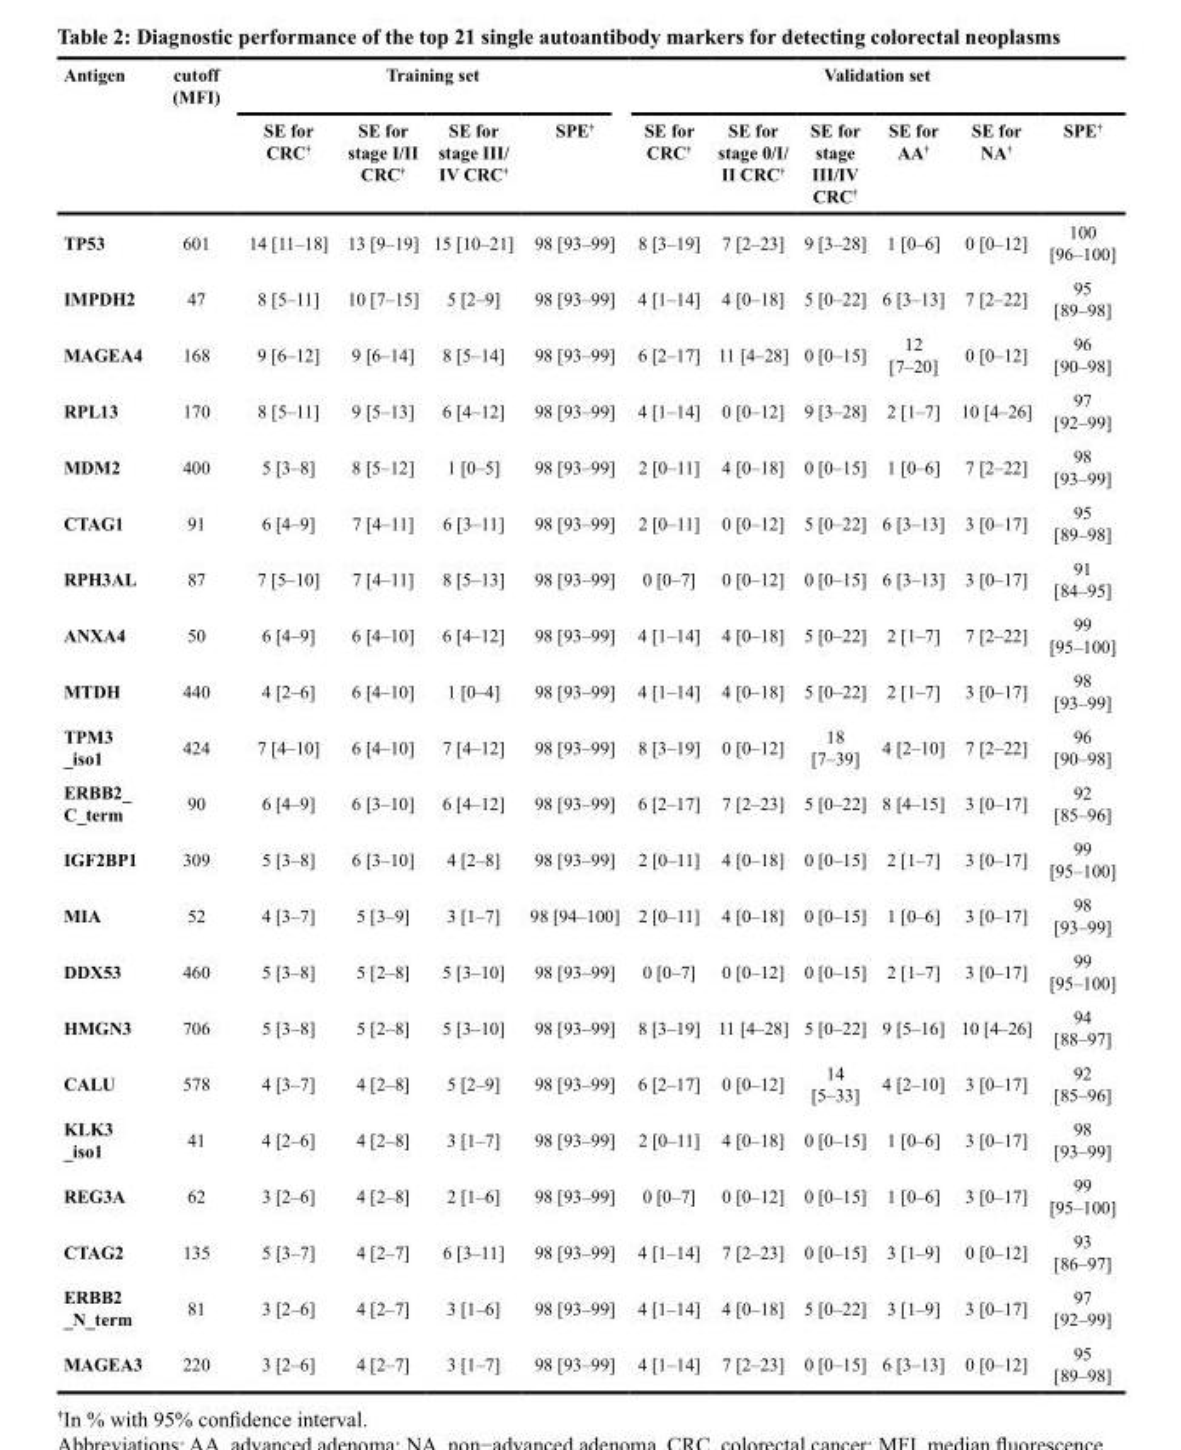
<table><thead><tr><td rowspan="2">Antigen</td><td rowspan="2">cutoff (MFI)</td><td colspan="4">Training set</td><td colspan="6">Vali dation set</td></tr><tr><td>SE for CRC<sup>†</sup></td><td>SE for stage I/II CRC<sup>†</sup></td><td>SE for stage III/ IV CRC<sup>†</sup></td><td>SPE<sup>†</sup></td><td>SE for CRC<sup>†</sup></td><td>SE for stage 0/I/ II CRC<sup>†</sup></td><td>SE for stage III/IV CRC<sup>†</sup></td><td>SE for AA<sup>†</sup></td><td>SE for NA<sup>†</sup></td><td>SPE<sup>†</sup></td></tr></thead><tbody><tr><td>TP53</td><td>601</td><td>14 [11–18]</td><td>13 [9–19]</td><td>15 [10–21]</td><td>98 [93–99]</td><td>8 [3–19]</td><td>7 [2–23]</td><td>9 [3–28]</td><td>1 [0–6]</td><td>0 [0–12]</td><td>100 [96–100]</td></tr><tr><td>IMPDH2</td><td>47</td><td>8 [5–11]</td><td>10 [7–15]</td><td>5 [2–9]</td><td>98 [93–99]</td><td>4 [1–14]</td><td>4 [0–18]</td><td>5 [0–22]</td><td>6 [3–13]</td><td>7 [2–22]</td><td>95 [89–98]</td></tr><tr><td>MAGEA4</td><td>168</td><td>9 [6–12]</td><td>9 [6–14]</td><td>8 [5–14]</td><td>98 [93–99]</td><td>6 [2–17]</td><td>11 [4–28]</td><td>0 [0–15]</td><td>12 [7–20]</td><td>0 [0–12]</td><td>96 [90–98]</td></tr><tr><td>RPL13</td><td>170</td><td>8 [5–11]</td><td>9 [5–13]</td><td>6 [4–12]</td><td>98 [93–99]</td><td>4 [1–14]</td><td>0 [0–12]</td><td>9 [3–28]</td><td>2 [1–7]</td><td>10 [4–26]</td><td>97 [92–99]</td></tr><tr><td>MDM2</td><td>400</td><td>5 [3–8]</td><td>8 [5–12]</td><td>1 [0–5]</td><td>98 [93–99]</td><td>2 [0–11]</td><td>4 [0–18]</td><td>0 [0–15]</td><td>1 [0–6]</td><td>7 [2–22]</td><td>98 [93–99]</td></tr><tr><td>CTAG1</td><td>91</td><td>6 [4–9]</td><td>7 [4–11]</td><td>6 [3–11]</td><td>98 [93–99]</td><td>2 [0–11]</td><td>0 [0–12]</td><td>5 [0–22]</td><td>6 [3–13]</td><td>3 [0–17]</td><td>95 [89–98]</td></tr><tr><td>RPH3AL</td><td>87</td><td>7 [5–10]</td><td>7 [4–11]</td><td>8 [5–13]</td><td>98 [93–99]</td><td>0 [0–7]</td><td>0 [0–12]</td><td>0 [0–15]</td><td>6 [3–13]</td><td>3 [0–17]</td><td>91 [84–95]</td></tr><tr><td>ANXA4</td><td>50</td><td>6 [4–9]</td><td>6 [4–10]</td><td>6 [4–12]</td><td>98 [93–99]</td><td>4 [1–14]</td><td>4 [0–18]</td><td>5 [0–22]</td><td>2 [1–7]</td><td>7 [2–22]</td><td>99 [95–100]</td></tr><tr><td>MTDH</td><td>440</td><td>4 [2–6]</td><td>6 [4–10]</td><td>1 [0–4]</td><td>98 [93–99]</td><td>4 [1–14]</td><td>4 [0–18]</td><td>5 [0–22]</td><td>2 [1–7]</td><td>3 [0–17]</td><td>98 [93–99]</td></tr><tr><td>TPM3 _iso1</td><td>424</td><td>7 [4–10]</td><td>6 [4–10]</td><td>7 [4–12]</td><td>98 [93–99]</td><td>8 [3–19]</td><td>0 [0–12]</td><td>18 [7–39]</td><td>4 [2–10]</td><td>7 [2–22]</td><td>96 [90–98]</td></tr><tr><td>ERBB2_ C_term</td><td>90</td><td>6 [4–9]</td><td>6 [3–10]</td><td>6 [4–12]</td><td>98 [93–99]</td><td>6 [2–17]</td><td>7 [2–23]</td><td>5 [0–22]</td><td>8 [4–15]</td><td>3 [0–17]</td><td>92 [85–96]</td></tr><tr><td>IGF2BP1</td><td>309</td><td>5 [3–8]</td><td>6 [3–10]</td><td>4 [2–8]</td><td>98 [93–99]</td><td>2 [0–11]</td><td>4 [0–18]</td><td>0 [0–15]</td><td>2 [1–7]</td><td>3 [0–17]</td><td>99 [95–100]</td></tr><tr><td>MIA</td><td>52</td><td>4 [3–7]</td><td>5 [3–9]</td><td>3 [1–7]</td><td>98 [94–100]</td><td>2 [0–11]</td><td>4 [0–18]</td><td>0 [0–15]</td><td>1 [0–6]</td><td>3 [0–17]</td><td>98 [93–99]</td></tr><tr><td>DDX53</td><td>460</td><td>5 [3–8]</td><td>5 [2–8]</td><td>5 [3–10]</td><td>98 [93–99]</td><td>0 [0–7]</td><td>0 [0–12]</td><td>0 [0–15]</td><td>2 [1–7]</td><td>3 [0–17]</td><td>99 [95–100]</td></tr><tr><td>HMGN3</td><td>706</td><td>5 [3–8]</td><td>5 [2–8]</td><td>5 [3–10]</td><td>98 [93–99]</td><td>8 [3–19]</td><td>11 [4–28]</td><td>5 [0–22]</td><td>9 [5–16]</td><td>10 [4–26]</td><td>94 [88–97]</td></tr><tr><td>CALU</td><td>578</td><td>4 [3–7]</td><td>4 [2–8]</td><td>5 [2–9]</td><td>98 [93–99]</td><td>6 [2–17]</td><td>0 [0–12]</td><td>14 [5–33]</td><td>4 [2–10]</td><td>3 [0–17]</td><td>92 [85–96]</td></tr><tr><td>KLK3 _iso1</td><td>41</td><td>4 [2–6]</td><td>4 [2–8]</td><td>3 [1–7]</td><td>98 [93–99]</td><td>2 [0–11]</td><td>4 [0–18]</td><td>0 [0–15]</td><td>1 [0–6]</td><td>3 [0–17]</td><td>98 [93–99]</td></tr><tr><td>REG3A</td><td>62</td><td>3 [2–6]</td><td>4 [2–8]</td><td>2 [1–6]</td><td>98 [93–99]</td><td>0 [0–7]</td><td>0 [0–12]</td><td>0 [0–15]</td><td>1 [0–6]</td><td>3 [0–17]</td><td>99 [95–100]</td></tr><tr><td>CTAG2</td><td>135</td><td>5 [3–7]</td><td>4 [2–7]</td><td>6 [3–11]</td><td>98 [93–99]</td><td>4 [1–14]</td><td>7 [2–23]</td><td>0 [0–15]</td><td>3 [1–9]</td><td>0 [0–12]</td><td>93 [86–97]</td></tr><tr><td>ERBB2 _N_term</td><td>81</td><td>3 [2–6]</td><td>4 [2–7]</td><td>3 [1–6]</td><td>98 [93–99]</td><td>4 [1–14]</td><td>4 [0–18]</td><td>5 [0–22]</td><td>3 [1–9]</td><td>3 [0–17]</td><td>97 [92–99]</td></tr><tr><td>MAGEA3</td><td>220</td><td>3 [2–6]</td><td>4 [2–7]</td><td>3 [1–7]</td><td>98 [93–99]</td><td>4 [1–14]</td><td>7 [2–23]</td><td>0 [0–15]</td><td>6 [3–13]</td><td>0 [0–12]</td><td>95 [89–98]</td></tr></tbody></table>